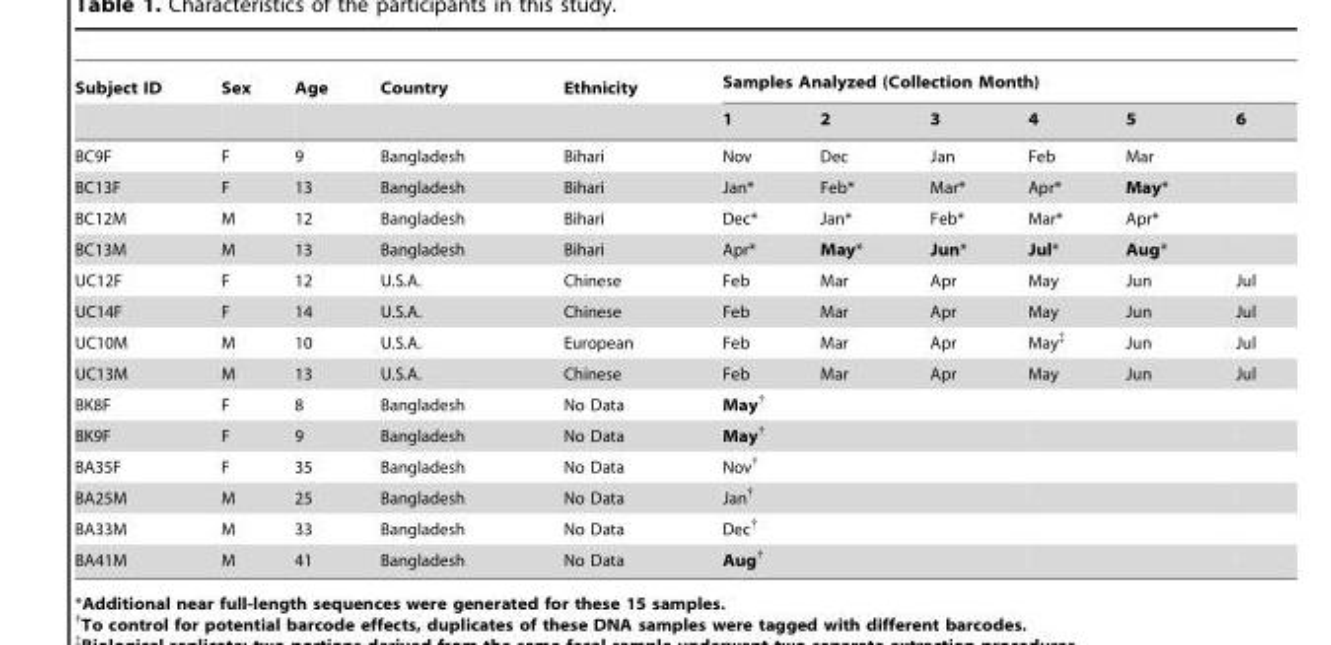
<table><thead><tr><td rowspan="2">Subject ID</td><td rowspan="2">Sex</td><td rowspan="2">Age</td><td rowspan="2">Country</td><td rowspan="2">Ethnicity</td><td colspan="6">Samples Analyzed (Collection Month)</td></tr><tr><td>1</td><td>2</td><td>3</td><td>4</td><td>5</td><td>6</td></tr></thead><tbody><tr><td>BC9F</td><td>F</td><td>9</td><td>Bangladesh</td><td>Bihari</td><td>Nov</td><td>Dec</td><td>Jan</td><td>Feb</td><td>Mar</td><td></td></tr><tr><td>BC13F</td><td>F</td><td>13</td><td>Bangladesh</td><td>Bihari</td><td>Jan*</td><td>Feb*</td><td>Mar*</td><td>Apr*</td><td>May*</td><td></td></tr><tr><td>BC12M</td><td>M</td><td>12</td><td>Bangladesh</td><td>Bihari</td><td>Dec*</td><td>Jan*</td><td>Feb*</td><td>Mar*</td><td>Apr*</td><td></td></tr><tr><td>BC13M</td><td>M</td><td>13</td><td>Bangladesh</td><td>Bihari</td><td>Apr*</td><td>May*</td><td>Jun*</td><td>Jul*</td><td>Aug*</td><td></td></tr><tr><td>UC12F</td><td>F</td><td>12</td><td>U.S.A.</td><td>Chinese</td><td>Feb</td><td>Mar</td><td>Apr</td><td>May</td><td>Jun</td><td>Jul</td></tr><tr><td>UC14F</td><td>F</td><td>14</td><td>U.S.A.</td><td>Chinese</td><td>Feb</td><td>Mar</td><td>Apr</td><td>May</td><td>Jun</td><td>Jul</td></tr><tr><td>UC10M</td><td>M</td><td>10</td><td>U.S.A.</td><td>European</td><td>Feb</td><td>Mar</td><td>Apr</td><td>May‡</td><td>Jun</td><td>Jul</td></tr><tr><td>UC13M</td><td>M</td><td>13</td><td>U.S.A.</td><td>Chinese</td><td>Feb</td><td>Mar</td><td>Apr</td><td>May</td><td>Jun</td><td>Jul</td></tr><tr><td>BK8F</td><td>F</td><td>8</td><td>Bangladesh</td><td>No Data</td><td>May†</td><td></td><td></td><td></td><td></td><td></td></tr><tr><td>BK9F</td><td>F</td><td>9</td><td>Bangladesh</td><td>No Data</td><td>May†</td><td></td><td></td><td></td><td></td><td></td></tr><tr><td>BA35F</td><td>F</td><td>35</td><td>Bangladesh</td><td>No Data</td><td>Nov†</td><td></td><td></td><td></td><td></td><td></td></tr><tr><td>BA25M</td><td>M</td><td>25</td><td>Bangladesh</td><td>No Data</td><td>Jan†</td><td></td><td></td><td></td><td></td><td></td></tr><tr><td>BA33M</td><td>M</td><td>33</td><td>Bangladesh</td><td>No Data</td><td>Dec†</td><td></td><td></td><td></td><td></td><td></td></tr><tr><td>BA41M</td><td>M</td><td>41</td><td>Bangladesh</td><td>No Data</td><td>Aug†</td><td></td><td></td><td></td><td></td><td></td></tr></tbody></table>